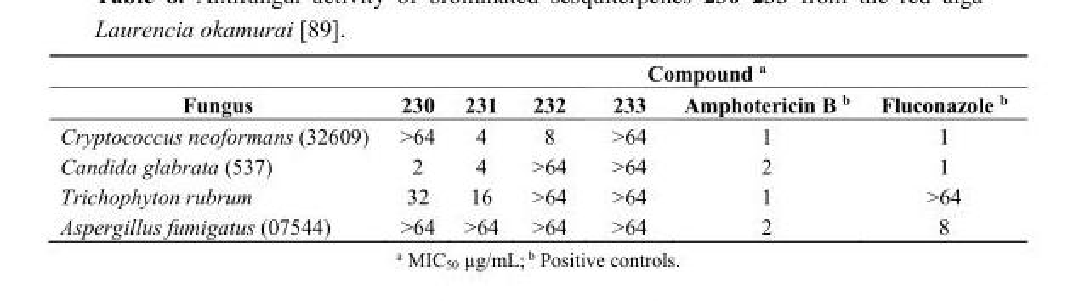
<table><thead><tr><td rowspan="2">Fungus</td><td colspan="6">Compound <sup>a</sup></td></tr><tr><td>230</td><td>231</td><td>232</td><td>233</td><td>Amphotericin B <sup>b</sup></td><td>Fluconazole <sup>b</sup></td></tr></thead><tbody><tr><td>Cryptococcus neoformans (32609)</td><td>&gt;64</td><td>4</td><td>8</td><td>&gt;64</td><td>1</td><td>1</td></tr><tr><td>Candida glabrata (537)</td><td>2</td><td>4</td><td>&gt;64</td><td>&gt;64</td><td>2</td><td>1</td></tr><tr><td>Trichophyton rubrum</td><td>32</td><td>16</td><td>&gt;64</td><td>&gt;64</td><td>1</td><td>&gt;64</td></tr><tr><td>Aspergillus fumigatus (07544)</td><td>&gt;64</td><td>&gt;64</td><td>&gt;64</td><td>&gt;64</td><td>2</td><td>8</td></tr></tbody></table>